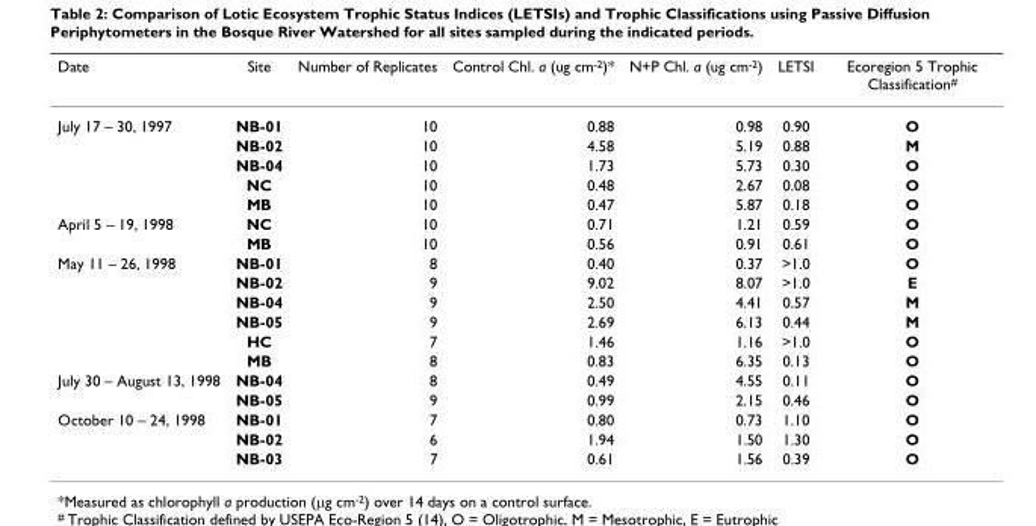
<table><thead><tr><td>Date</td><td>Site</td><td>Number of Replicates</td><td>Control Chl. a (ug cm<sup>-2</sup>)*</td><td>N+P Chl. a (ug cm<sup>-2</sup>)</td><td>LETSI</td><td>Ecoregion 5 Trophic Classification<sup>#</sup></td></tr></thead><tbody><tr><td rowspan="5">July 17 – 30, 1997</td><td>NB-01</td><td>10</td><td>0.88</td><td>0.98</td><td>0.90</td><td>O</td></tr><tr><td>NB-02</td><td>10</td><td>4.58</td><td>5.19</td><td>0.88</td><td>M</td></tr><tr><td>NB-04</td><td>10</td><td>1.73</td><td>5.73</td><td>0.30</td><td>O</td></tr><tr><td>NC</td><td>10</td><td>0.48</td><td>2.67</td><td>0.08</td><td>O</td></tr><tr><td>MB</td><td>10</td><td>0.47</td><td>5.87</td><td>0.18</td><td>O</td></tr><tr><td rowspan="2">April 5 – 19, 1998</td><td>NC</td><td>10</td><td>0.71</td><td>1.21</td><td>0.59</td><td>O</td></tr><tr><td>MB</td><td>10</td><td>0.56</td><td>0.91</td><td>0.61</td><td>O</td></tr><tr><td rowspan="6">May 11 – 26, 1998</td><td>NB-01</td><td>8</td><td>0.40</td><td>0.37</td><td>&gt;1.0</td><td>O</td></tr><tr><td>NB-02</td><td>9</td><td>9.02</td><td>8.07</td><td>&gt;1.0</td><td>E</td></tr><tr><td>NB-04</td><td>9</td><td>2.50</td><td>4.41</td><td>0.57</td><td>M</td></tr><tr><td>NB-05</td><td>9</td><td>2.69</td><td>6.13</td><td>0.44</td><td>M</td></tr><tr><td>HC</td><td>7</td><td>1.46</td><td>1.16</td><td>&gt;1.0</td><td>O</td></tr><tr><td>MB</td><td>8</td><td>0.83</td><td>6.35</td><td>0.13</td><td>O</td></tr><tr><td rowspan="2">July 30 – August 13, 1998</td><td>NB-04</td><td>8</td><td>0.49</td><td>4.55</td><td>0.11</td><td>O</td></tr><tr><td>NB-05</td><td>9</td><td>0.99</td><td>2.15</td><td>0.46</td><td>O</td></tr><tr><td rowspan="3">October 10 – 24, 1998</td><td>NB-01</td><td>7</td><td>0.80</td><td>0.73</td><td>1.10</td><td>O</td></tr><tr><td>NB-02</td><td>6</td><td>1.94</td><td>1.50</td><td>1.30</td><td>O</td></tr><tr><td>NB-03</td><td>7</td><td>0.61</td><td>1.56</td><td>0.39</td><td>O</td></tr></tbody></table>